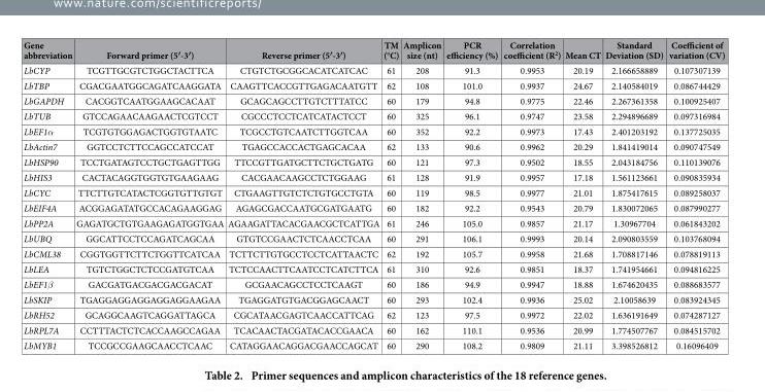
<table><thead><tr><td>Gene abbreviation</td><td>Forward primer (5′-3′)</td><td>Reverse primer (5′-3′)</td><td>TM (°C)</td><td>Amplicon size (nt)</td><td>PCR efficiency (%)</td><td>Correlation coefficient (R<sup>2</sup>)</td><td>Mean CT</td><td>Standard Deviation (SD)</td><td>Coefficient of variation (CV)</td></tr></thead><tbody><tr><td>LbCYP</td><td>TCGTTGCGTCTGGCTACTTCA</td><td>CTGTCTGCGGCACATCATCAC</td><td>61</td><td>208</td><td>91.3</td><td>0.9953</td><td>20.19</td><td>2.166658889</td><td>0.107307139</td></tr><tr><td>LbTBP</td><td>CGACGAATGGCAGATCAAGGATA</td><td>CAAGTTCACCGTTGAGACAATGTT</td><td>62</td><td>108</td><td>101.0</td><td>0.9937</td><td>24.67</td><td>2.140584019</td><td>0.086744429</td></tr><tr><td>LbGAPDH</td><td>CACGGTCAATGGAAGCACAAT</td><td>GCAGCAGCCTTGTCTTTATCC</td><td>60</td><td>179</td><td>94.8</td><td>0.9775</td><td>22.46</td><td>2.267361358</td><td>0.100925407</td></tr><tr><td>LbTUB</td><td>GTCCAGAACAAGAACTCGTCCT</td><td>CGCCCTCCTCATCATACTCCT</td><td>60</td><td>325</td><td>96.1</td><td>0.9747</td><td>23.58</td><td>2.294896689</td><td>0.097316984</td></tr><tr><td>LbEF1α</td><td>TCGTGTGGAGACTGGTGTAATC</td><td>TCGCCTGTCAATCTTGGTCAA</td><td>60</td><td>352</td><td>92.2</td><td>0.9973</td><td>17.43</td><td>2.401203192</td><td>0.137725035</td></tr><tr><td>LbActin7</td><td>GGTCCTCTTCCAGCCATCCAT</td><td>TGAGCCACCACTGAGCACAA</td><td>62</td><td>133</td><td>90.6</td><td>0.9962</td><td>20.29</td><td>1.841419014</td><td>0.090747549</td></tr><tr><td>LbHSP90</td><td>TCCTGATAGTCCTGCTGAGTTGG</td><td>TTCCGTTGATGCTTCTGCTGATG</td><td>60</td><td>121</td><td>97.3</td><td>0.9502</td><td>18.55</td><td>2.043184756</td><td>0.110139076</td></tr><tr><td>LbHIS3</td><td>CACTACAGGTGGTGTGAAGAAG</td><td>CACGAACAAGCCTCTGGAAG</td><td>61</td><td>128</td><td>91.9</td><td>0.9957</td><td>17.18</td><td>1.561123661</td><td>0.090835934</td></tr><tr><td>LbCYC</td><td>TTCTTGTCATACTCGGTGTTGTGT</td><td>CTGAAGTTGTCTCTGTGCCTGTA</td><td>60</td><td>119</td><td>98.5</td><td>0.9977</td><td>21.01</td><td>1.875417615</td><td>0.089258037</td></tr><tr><td>LbEIF4A</td><td>ACGGAGATATGCCACAGAAGGAG</td><td>AGAGCGACCAATGCGATGAATG</td><td>60</td><td>182</td><td>92.2</td><td>0.9543</td><td>20.79</td><td>1.830072065</td><td>0.087990277</td></tr><tr><td>LbPP2A</td><td>GAGATGCTGTGAAGAGATGGTGAA</td><td>AGAAGATTACACGAACGCTCATTGA</td><td>61</td><td>246</td><td>105.0</td><td>0.9857</td><td>21.17</td><td>1.30967704</td><td>0.061843202</td></tr><tr><td>LbUBQ</td><td>GGCATTCCTCCAGATCAGCAA</td><td>GTGTCCGAACTCTCAACCTCAA</td><td>60</td><td>291</td><td>106.1</td><td>0.9993</td><td>20.14</td><td>2.090803559</td><td>0.103768094</td></tr><tr><td>LbCML38</td><td>CGGTGGTTCTTCTGGTTCATCAA</td><td>TCTTCTTGTGCCTCCTCATTAACTC</td><td>62</td><td>192</td><td>105.7</td><td>0.9958</td><td>21.68</td><td>1.708817146</td><td>0.078819113</td></tr><tr><td>LbLEA</td><td>TGTCTGGCTCTCCGATGTCAA</td><td>TCTCCAACTTCAATCCTCATCTTCA</td><td>61</td><td>310</td><td>92.6</td><td>0.9851</td><td>18.37</td><td>1.741954661</td><td>0.094816225</td></tr><tr><td>LbEF1β</td><td>GACGATGACGACGACGACAT</td><td>GCGAACAGCCTCCTCAAGT</td><td>60</td><td>186</td><td>94.9</td><td>0.9947</td><td>18.88</td><td>1.674620435</td><td>0.088683577</td></tr><tr><td>LbSKIP</td><td>TGAGGAGGAGGAGGAGGAAGAA</td><td>TGAGGATGTGACGGAGCAACT</td><td>60</td><td>293</td><td>102.4</td><td>0.9936</td><td>25.02</td><td>2.10058639</td><td>0.083924345</td></tr><tr><td>LbRH52</td><td>GCAGGCAAGTCAGGATTAGCA</td><td>CGCATAACGAGTCAACCATTCAG</td><td>62</td><td>123</td><td>97.5</td><td>0.9972</td><td>22.02</td><td>1.636191649</td><td>0.074287127</td></tr><tr><td>LbRPL7A</td><td>CCTTTACTCTCACCAAGCCAGAA</td><td>TCACAACTACGATACACCGAACA</td><td>60</td><td>162</td><td>110.1</td><td>0.9536</td><td>20.99</td><td>1.774507767</td><td>0.084515702</td></tr><tr><td>LbMYB1</td><td>TCCGCCGAAGCAACCTCAAC</td><td>CATAGGAACAGGACGAACCAGCAT</td><td>60</td><td>290</td><td>108.2</td><td>0.9809</td><td>21.11</td><td>3.398526812</td><td>0.16096409</td></tr></tbody></table>